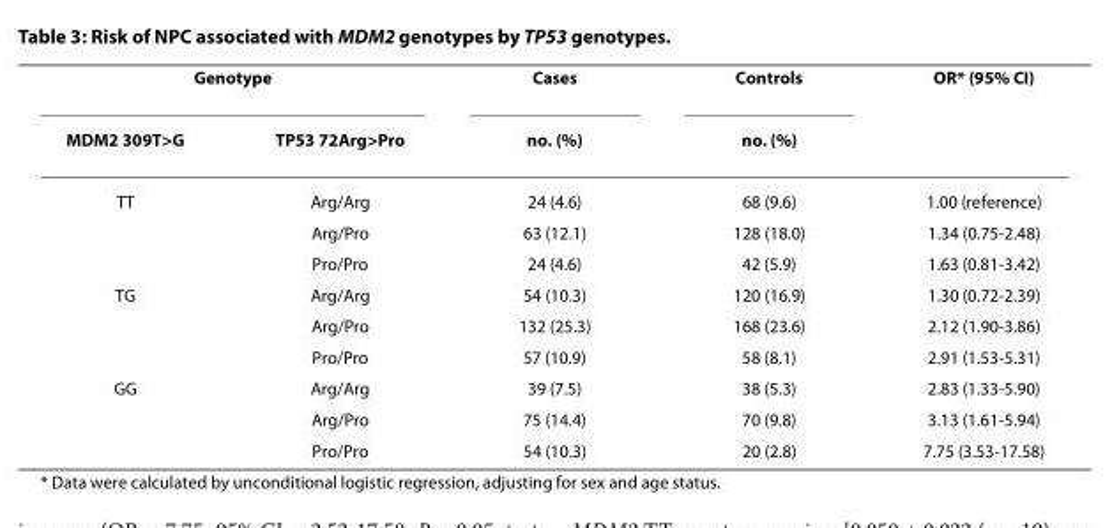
<table><thead><tr><td colspan="2">Genotype</td><td rowspan="2">Cases no. (%)</td><td rowspan="2">Controls no. (%)</td><td rowspan="2">OR* (95% CI)</td></tr><tr><td>MDM2 309T&gt;G</td><td>TP53 72Arg&gt;Pro</td></tr></thead><tbody><tr><td rowspan="3">TT</td><td>Arg/Arg</td><td>24 (4.6)</td><td>68 (9.6)</td><td>1.00 (reference)</td></tr><tr><td>Arg/Pro</td><td>63 (12.1)</td><td>128 (18.0)</td><td>1.34 (0.75-2.48)</td></tr><tr><td>Pro/Pro</td><td>24 (4.6)</td><td>42 (5.9)</td><td>1.63 (0.81-3.42)</td></tr><tr><td rowspan="3">TG</td><td>Arg/Arg</td><td>54 (10.3)</td><td>120 (16.9)</td><td>1.30 (0.72-2.39)</td></tr><tr><td>Arg/Pro</td><td>132 (25.3)</td><td>168 (23.6)</td><td>2.12 (1.90-3.86)</td></tr><tr><td>Pro/Pro</td><td>57 (10.9)</td><td>58 (8.1)</td><td>2.91 (1.53-5.31)</td></tr><tr><td rowspan="3">GG</td><td>Arg/Arg</td><td>39 (7.5)</td><td>38 (5.3)</td><td>2.83 (1.33-5.90)</td></tr><tr><td>Arg/Pro</td><td>75 (14.4)</td><td>70 (9.8)</td><td>3.13 (1.61-5.94)</td></tr><tr><td>Pro/Pro</td><td>54 (10.3)</td><td>20 (2.8)</td><td>7.75 (3.53-17.58)</td></tr></tbody></table>